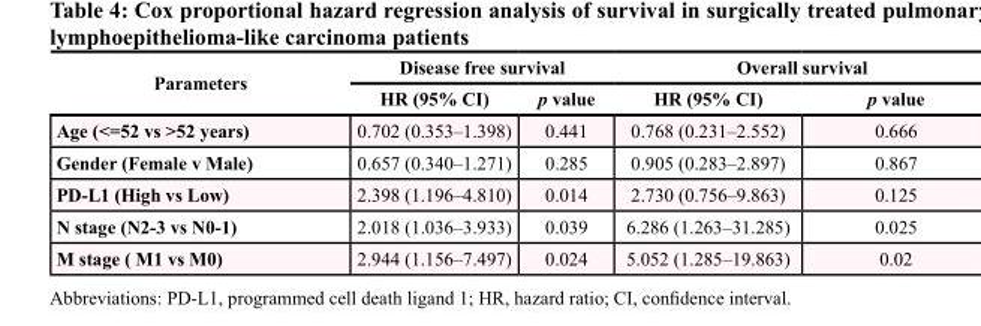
<table><thead><tr><td rowspan="2">Parameters</td><td colspan="2">Disease free survival</td><td colspan="2">Overall survival</td></tr><tr><td>HR (95% CI)</td><td>p value</td><td>HR (95% CI)</td><td>p value</td></tr></thead><tbody><tr><td>Age (&lt;=52 vs &gt;52 years)</td><td>0.702 (0.353–1.398)</td><td>0.441</td><td>0.768 (0.231–2.552)</td><td>0.666</td></tr><tr><td>Gender (Female v Male)</td><td>0.657 (0.340–1.271)</td><td>0.285</td><td>0.905 (0.283–2.897)</td><td>0.867</td></tr><tr><td>PD-L1 (High vs Low)</td><td>2.398 (1.196–4.810)</td><td>0.014</td><td>2.730 (0.756–9.863)</td><td>0.125</td></tr><tr><td>N stage (N2-3 vs N0-1)</td><td>2.018 (1.036–3.933)</td><td>0.039</td><td>6.286 (1.263–31.285)</td><td>0.025</td></tr><tr><td>M stage ( M1 vs M0)</td><td>2.944 (1.156–7.497)</td><td>0.024</td><td>5.052 (1.285–19.863)</td><td>0.02</td></tr></tbody></table>